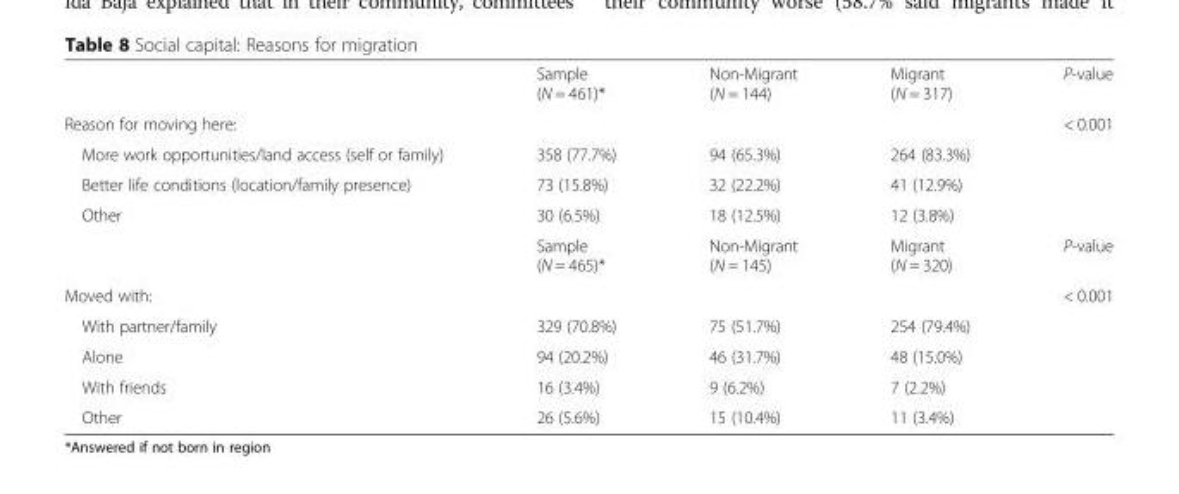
<table><thead><tr><td></td><td>Sample (N = 461)*</td><td>Non-Migrant (N = 144)</td><td>Migrant (N = 317)</td><td>P-value</td></tr></thead><tbody><tr><td colspan="2">Reason for moving here:</td><td></td><td></td><td>&lt; 0.001</td></tr><tr><td>More work opportunities/land access (self or family)</td><td>358 (77.7%)</td><td>94 (65.3%)</td><td>264 (83.3%)</td><td></td></tr><tr><td>Better life conditions (location/family presence)</td><td>73 (15.8%)</td><td>32 (22.2%)</td><td>41 (12.9%)</td><td></td></tr><tr><td rowspan="2">Other</td><td>30 (6.5%)</td><td>18 (12.5%)</td><td>12 (3.8%)</td><td></td></tr><tr><td>Sample (N = 465)*</td><td>Non-Migrant (N = 145)</td><td>Migrant (N = 320)</td><td>P-value</td></tr><tr><td colspan="2">Moved with:</td><td></td><td></td><td>&lt; 0.001</td></tr><tr><td>With partner/family</td><td>329 (70.8%)</td><td>75 (51.7%)</td><td>254 (79.4%)</td><td></td></tr><tr><td>Alone</td><td>94 (20.2%)</td><td>46 (31.7%)</td><td>48 (15.0%)</td><td></td></tr><tr><td>With friends</td><td>16 (3.4%)</td><td>9 (6.2%)</td><td>7 (2.2%)</td><td></td></tr><tr><td>Other</td><td>26 (5.6%)</td><td>15 (10.4%)</td><td>11 (3.4%)</td><td></td></tr></tbody></table>